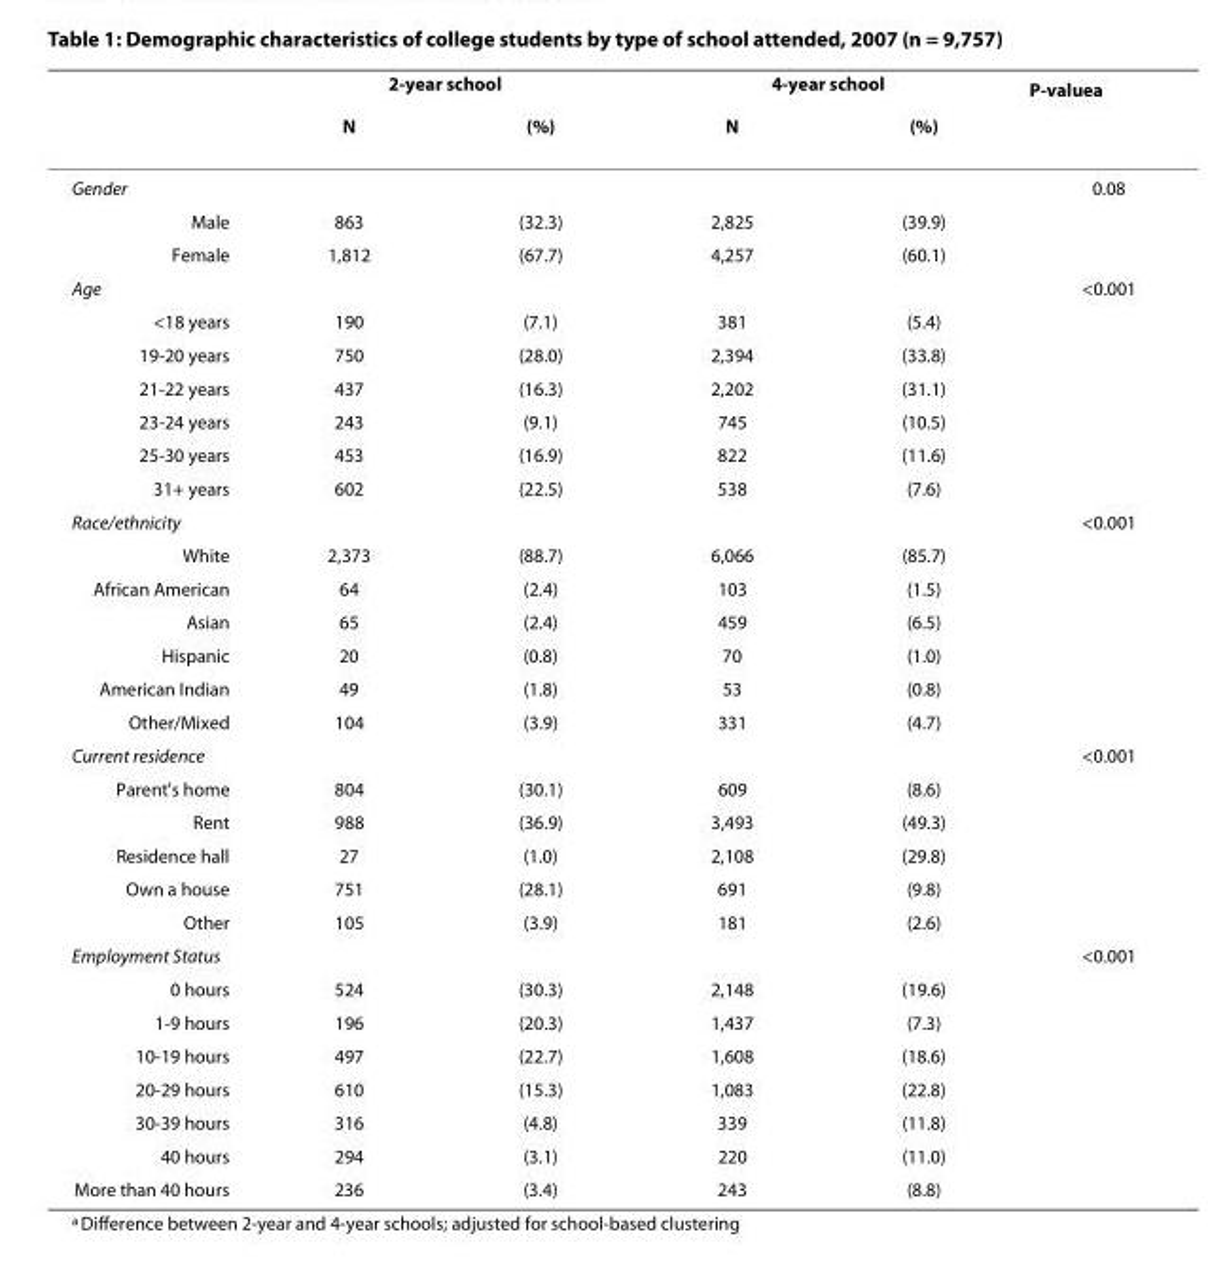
<table><thead><tr><td rowspan="2"></td><td colspan="2">2-year school</td><td colspan="2">4-year school</td><td rowspan="2">P-value<sup>a</sup></td></tr><tr><td>N</td><td>(%)</td><td>N</td><td>(%)</td></tr></thead><tbody><tr><td>Gender</td><td></td><td></td><td></td><td></td><td>0.08</td></tr><tr><td>Male</td><td>863</td><td>(32.3)</td><td>2,825</td><td>(39.9)</td><td></td></tr><tr><td>Female</td><td>1,812</td><td>(67.7)</td><td>4,257</td><td>(60.1)</td><td></td></tr><tr><td>Age</td><td></td><td></td><td></td><td></td><td>&lt;0.001</td></tr><tr><td>&lt;18 years</td><td>190</td><td>(7.1)</td><td>381</td><td>(5.4)</td><td></td></tr><tr><td>19-20 years</td><td>750</td><td>(28.0)</td><td>2,394</td><td>(33.8)</td><td></td></tr><tr><td>21-22 years</td><td>437</td><td>(16.3)</td><td>2,202</td><td>(31.1)</td><td></td></tr><tr><td>23-24 years</td><td>243</td><td>(9.1)</td><td>745</td><td>(10.5)</td><td></td></tr><tr><td>25-30 years</td><td>453</td><td>(16.9)</td><td>822</td><td>(11.6)</td><td></td></tr><tr><td>31+ years</td><td>602</td><td>(22.5)</td><td>538</td><td>(7.6)</td><td></td></tr><tr><td>Race/ethnicity</td><td></td><td></td><td></td><td></td><td>&lt;0.001</td></tr><tr><td>White</td><td>2,373</td><td>(88.7)</td><td>6,066</td><td>(85.7)</td><td></td></tr><tr><td>African American</td><td>64</td><td>(2.4)</td><td>103</td><td>(1.5)</td><td></td></tr><tr><td>Asian</td><td>65</td><td>(2.4)</td><td>459</td><td>(6.5)</td><td></td></tr><tr><td>Hispanic</td><td>20</td><td>(0.8)</td><td>70</td><td>(1.0)</td><td></td></tr><tr><td>American Indian</td><td>49</td><td>(1.8)</td><td>53</td><td>(0.8)</td><td></td></tr><tr><td>Other/Mixed</td><td>104</td><td>(3.9)</td><td>331</td><td>(4.7)</td><td></td></tr><tr><td>Current residence</td><td></td><td></td><td></td><td></td><td>&lt;0.001</td></tr><tr><td>Parent&#x27;s home</td><td>804</td><td>(30.1)</td><td>609</td><td>(8.6)</td><td></td></tr><tr><td>Rent</td><td>988</td><td>(36.9)</td><td>3,493</td><td>(49.3)</td><td></td></tr><tr><td>Residence hall</td><td>27</td><td>(1.0)</td><td>2,108</td><td>(29.8)</td><td></td></tr><tr><td>Own a house</td><td>751</td><td>(28.1)</td><td>691</td><td>(9.8)</td><td></td></tr><tr><td>Other</td><td>105</td><td>(3.9)</td><td>181</td><td>(2.6)</td><td></td></tr><tr><td>Employment Status</td><td></td><td></td><td></td><td></td><td>&lt;0.001</td></tr><tr><td>0 hours</td><td>524</td><td>(30.3)</td><td>2,148</td><td>(19.6)</td><td></td></tr><tr><td>1-9 hours</td><td>196</td><td>(20.3)</td><td>1,437</td><td>(7.3)</td><td></td></tr><tr><td>10-19 hours</td><td>497</td><td>(22.7)</td><td>1,608</td><td>(18.6)</td><td></td></tr><tr><td>20-29 hours</td><td>610</td><td>(15.3)</td><td>1,083</td><td>(22.8)</td><td></td></tr><tr><td>30-39 hours</td><td>316</td><td>(4.8)</td><td>339</td><td>(11.8)</td><td></td></tr><tr><td>40 hours</td><td>294</td><td>(3.1)</td><td>220</td><td>(11.0)</td><td></td></tr><tr><td>More than 40 hours</td><td>236</td><td>(3.4)</td><td>243</td><td>(8.8)</td><td></td></tr></tbody></table>